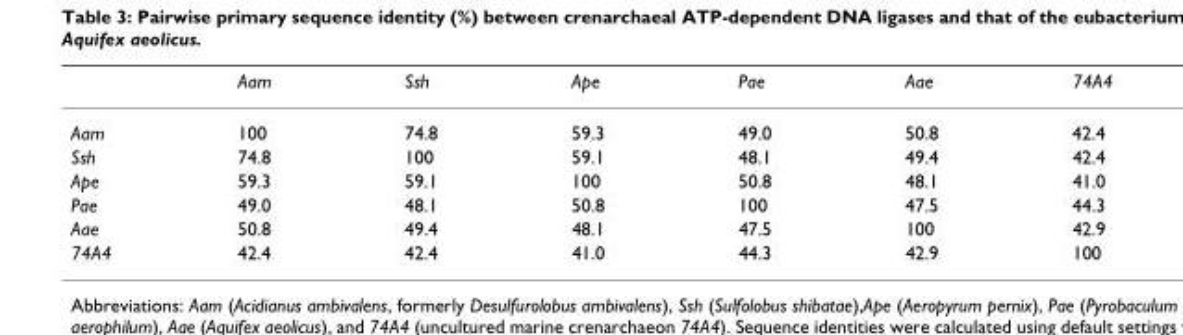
<table><thead><tr><td></td><td>Aam</td><td>Ssh</td><td>Ape</td><td>Pae</td><td>Aae</td><td>74A4</td></tr></thead><tbody><tr><td>Aam</td><td>100</td><td>74.8</td><td>59.3</td><td>49.0</td><td>50.8</td><td>42.4</td></tr><tr><td>Ssh</td><td>74.8</td><td>100</td><td>59.1</td><td>48.1</td><td>49.4</td><td>42.4</td></tr><tr><td>Ape</td><td>59.3</td><td>59.1</td><td>100</td><td>50.8</td><td>48.1</td><td>41.0</td></tr><tr><td>Pae</td><td>49.0</td><td>48.1</td><td>50.8</td><td>100</td><td>47.5</td><td>44.3</td></tr><tr><td>Aae</td><td>50.8</td><td>49.4</td><td>48.1</td><td>47.5</td><td>100</td><td>42.9</td></tr><tr><td>74A4</td><td>42.4</td><td>42.4</td><td>41.0</td><td>44.3</td><td>42.9</td><td>100</td></tr></tbody></table>